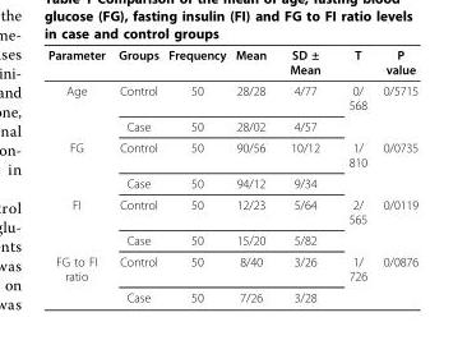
<table><thead><tr><td>Parameter</td><td>Groups</td><td>Frequency</td><td>Mean</td><td>SD ± Mean</td><td>T</td><td>P value</td></tr></thead><tbody><tr><td rowspan="2">Age</td><td>Control</td><td>50</td><td>28/28</td><td>4/77</td><td>0/ 568</td><td>0/5715</td></tr><tr><td>Case</td><td>50</td><td>28/02</td><td>4/57</td><td></td><td></td></tr><tr><td rowspan="2">FG</td><td>Control</td><td>50</td><td>90/56</td><td>10/12</td><td>1/ 810</td><td>0/0735</td></tr><tr><td>Case</td><td>50</td><td>94/12</td><td>9/34</td><td></td><td></td></tr><tr><td rowspan="2">FI</td><td>Control</td><td>50</td><td>12/23</td><td>5/64</td><td>2/ 565</td><td>0/0119</td></tr><tr><td>Case</td><td>50</td><td>15/20</td><td>5/82</td><td></td><td></td></tr><tr><td rowspan="2">FG to FI ratio</td><td>Control</td><td>50</td><td>8/40</td><td>3/26</td><td>1/ 726</td><td>0/0876</td></tr><tr><td>Case</td><td>50</td><td>7/26</td><td>3/28</td><td></td><td></td></tr></tbody></table>